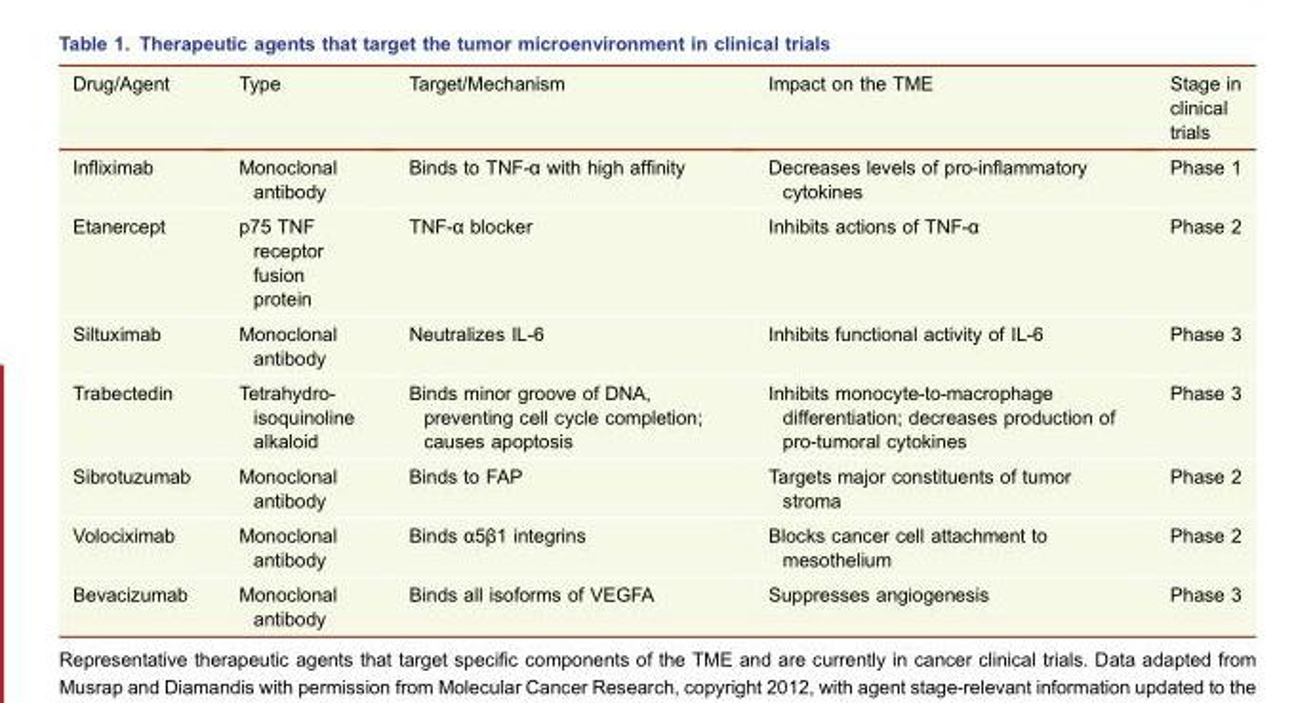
<table><thead><tr><td>Drug/Agent</td><td>Type</td><td>Target/Mechanism</td><td>Impact on the TME</td><td>Stage in clinical trials</td></tr></thead><tbody><tr><td>Infliximab</td><td>Monoclonal antibody</td><td>Binds to TNF-α with high affinity</td><td>Decreases levels of pro-inflammatory cytokines</td><td>Phase 1</td></tr><tr><td>Etanercept</td><td>p75 TNF receptor fusion protein</td><td>TNF-α blocker</td><td>Inhibits actions of TNF-α</td><td>Phase 2</td></tr><tr><td>Siltuximab</td><td>Monoclonal antibody</td><td>Neutralizes IL-6</td><td>Inhibits functional activity of IL-6</td><td>Phase 3</td></tr><tr><td>Trabectedin</td><td>Tetrahydro- isoquinoline alkaloid</td><td>Binds minor groove of DNA, preventing cell cycle completion; causes apoptosis</td><td>Inhibits monocyte-to-macrophage differentiation; decreases production of pro-tumoral cytokines</td><td>Phase 3</td></tr><tr><td>Sibrotuzumab</td><td>Monoclonal antibody</td><td>Binds to FAP</td><td>Targets major constituents of tumor stroma</td><td>Phase 2</td></tr><tr><td>Volociximab</td><td>Monoclonal antibody</td><td>Binds α5β1 integrins</td><td>Blocks cancer cell attachment to mesothelium</td><td>Phase 2</td></tr><tr><td>Bevacizumab</td><td>Monoclonal antibody</td><td>Binds all isoforms of VEGFA</td><td>Suppresses angiogenesis</td><td>Phase 3</td></tr></tbody></table>